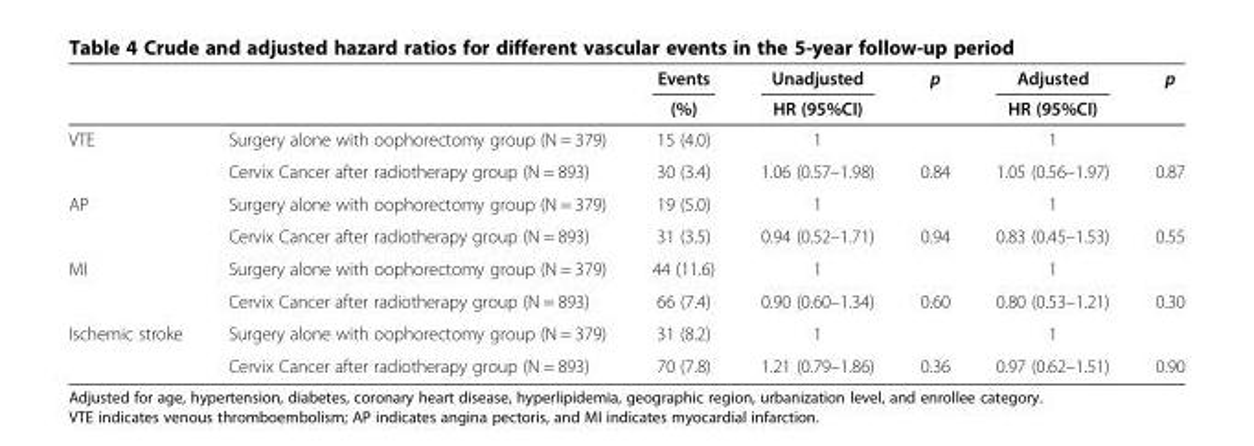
<table><thead><tr><td rowspan="2"></td><td rowspan="2"></td><td rowspan="2">Events (%)</td><td rowspan="2">Unadjusted HR (95%CI)</td><td rowspan="2">p</td><td rowspan="2">Adjusted HR (95%CI)</td><td rowspan="2">p</td></tr><tr></tr></thead><tbody><tr><td rowspan="2">VTE</td><td>Surgery alone with oophorectomy group (N = 379)</td><td>15 (4.0)</td><td>1</td><td></td><td>1</td><td></td></tr><tr><td>Cervix Cancer after radiotherapy group (N = 893)</td><td>30 (3.4)</td><td>1.06 (0.57–1.98)</td><td>0.84</td><td>1.05 (0.56–1.97)</td><td>0.87</td></tr><tr><td rowspan="2">AP</td><td>Surgery alone with oophorectomy group (N = 379)</td><td>19 (5.0)</td><td>1</td><td></td><td>1</td><td></td></tr><tr><td>Cervix Cancer after radiotherapy group (N = 893)</td><td>31 (3.5)</td><td>0.94 (0.52–1.71)</td><td>0.94</td><td>0.83 (0.45–1.53)</td><td>0.55</td></tr><tr><td rowspan="2">MI</td><td>Surgery alone with oophorectomy group (N = 379)</td><td>44 (11.6)</td><td>1</td><td></td><td>1</td><td></td></tr><tr><td>Cervix Cancer after radiotherapy group (N = 893)</td><td>66 (7.4)</td><td>0.90 (0.60–1.34)</td><td>0.60</td><td>0.80 (0.53–1.21)</td><td>0.30</td></tr><tr><td rowspan="2">Ischemic stroke</td><td>Surgery alone with oophorectomy group (N = 379)</td><td>31 (8.2)</td><td>1</td><td></td><td>1</td><td></td></tr><tr><td>Cervix Cancer after radiotherapy group (N = 893)</td><td>70 (7.8)</td><td>1.21 (0.79–1.86)</td><td>0.36</td><td>0.97 (0.62–1.51)</td><td>0.90</td></tr></tbody></table>